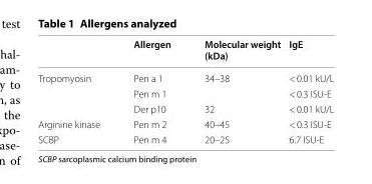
<table><thead><tr><td></td><td>Allergen</td><td>Molecular weight (kDa)</td><td>IgE</td></tr></thead><tbody><tr><td rowspan="3">Tropomyosin</td><td>Pen a 1</td><td rowspan="2">34–38</td><td>&lt; 0.01 kU/L</td></tr><tr><td>Pen m 1</td><td>&lt; 0.3 ISU-E</td></tr><tr><td>Der p10</td><td>32</td><td>&lt; 0.01 kU/L</td></tr><tr><td>Arginine kinase</td><td>Pen m 2</td><td>40–45</td><td>&lt; 0.3 ISU-E</td></tr><tr><td>SCBP</td><td>Pen m 4</td><td>20–25</td><td>6.7 ISU-E</td></tr></tbody></table>